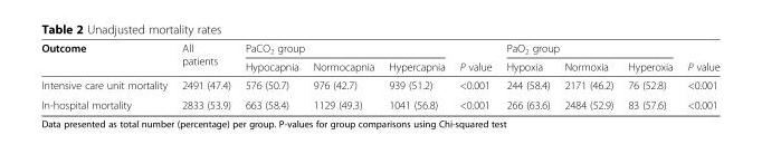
<table><thead><tr><td rowspan="2">Outcome</td><td rowspan="2">All patients</td><td colspan="3">PaCO<sub>2</sub> group</td><td rowspan="2">P value</td><td colspan="3">PaO<sub>2</sub> group</td><td rowspan="2">P value</td></tr><tr><td>Hypocapnia</td><td>Normocapnia</td><td>Hypercapnia</td><td>Hypoxia</td><td>Normoxia</td><td>Hyperoxia</td></tr></thead><tbody><tr><td>Intensive care unit mortality</td><td>2491 (47.4)</td><td>576 (50.7)</td><td>976 (42.7)</td><td>939 (51.2)</td><td>&lt;0.001</td><td>244 (58.4)</td><td>2171 (46.2)</td><td>76 (52.8)</td><td>&lt;0.001</td></tr><tr><td>In-hospital mortality</td><td>2833 (53.9)</td><td>663 (58.4)</td><td>1129 (49.3)</td><td>1041 (56.8)</td><td>&lt;0.001</td><td>266 (63.6)</td><td>2484 (52.9)</td><td>83 (57.6)</td><td>&lt;0.001</td></tr></tbody></table>